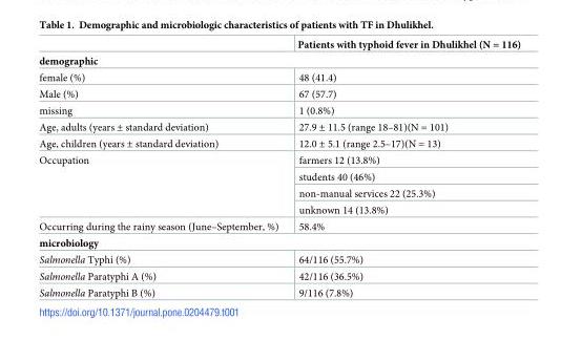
<table><thead><tr><td></td><td>Patients with typhoid fever in Dhulikhel (N = 116)</td></tr></thead><tbody><tr><td colspan="2">demographic</td></tr><tr><td>female (%)</td><td>48 (41.4)</td></tr><tr><td>Male (%)</td><td>67 (57.7)</td></tr><tr><td>missing</td><td>1 (0.8%)</td></tr><tr><td>Age, adults (years ± standard deviation)</td><td>27.9 ± 11.5 (range 18–81)(N = 101)</td></tr><tr><td>Age, children (years ± standard deviation)</td><td>12.0 ± 5.1 (range 2.5–17)(N = 13)</td></tr><tr><td rowspan="4">Occupation</td><td>farmers 12 (13.8%)</td></tr><tr><td>students 40 (46%)</td></tr><tr><td>non-manual services 22 (25.3%)</td></tr><tr><td>unknown 14 (13.8%)</td></tr><tr><td>Occurring during the rainy season (June–September, %)</td><td>58.4%</td></tr><tr><td colspan="2">microbiology</td></tr><tr><td>Salmonella Typhi (%)</td><td>64/116 (55.7%)</td></tr><tr><td>Salmonella Paratyphi A (%)</td><td>42/116 (36.5%)</td></tr><tr><td>Salmonella Paratyphi B (%)</td><td>9/116 (7.8%)</td></tr></tbody></table>